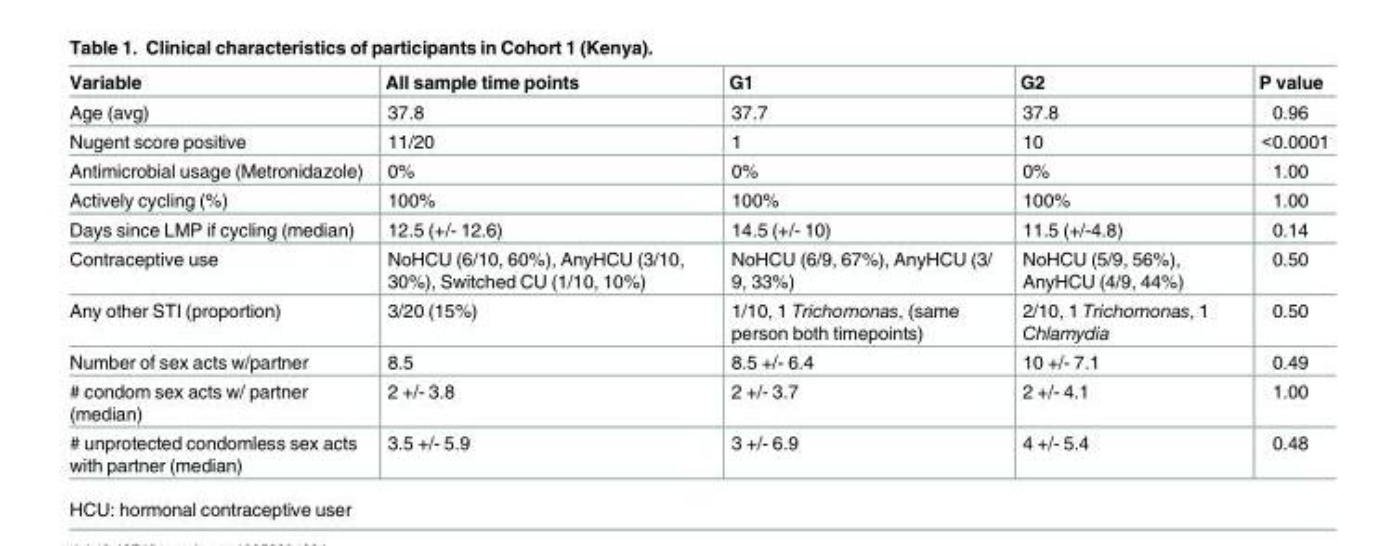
<table><thead><tr><td>Variable</td><td>All sample time points</td><td>G1</td><td>G2</td><td>P value</td></tr></thead><tbody><tr><td>Age (avg)</td><td>37.8</td><td>37.7</td><td>37.8</td><td>0.96</td></tr><tr><td>Nugent score positive</td><td>11/20</td><td>1</td><td>10</td><td>&lt;0.0001</td></tr><tr><td>Antimicrobial usage (Metronidazole)</td><td>0%</td><td>0%</td><td>0%</td><td>1.00</td></tr><tr><td>Actively cycling (%)</td><td>100%</td><td>100%</td><td>100%</td><td>1.00</td></tr><tr><td>Days since LMP if cycling (median)</td><td>12.5 (+/- 12.6)</td><td>14.5 (+/- 10)</td><td>11.5 (+/-4.8)</td><td>0.14</td></tr><tr><td>Contraceptive use</td><td>NoHCU (6/10, 60%), AnyHCU (3/10, 30%), Switched CU (1/10, 10%)</td><td>NoHCU (6/9, 67%), AnyHCU (3/ 9, 33%)</td><td>NoHCU (5/9, 56%), AnyHCU (4/9, 44%)</td><td>0.50</td></tr><tr><td>Any other STI (proportion)</td><td>3/20 (15%)</td><td>1/10, 1 Trichomonas, (same person both timepoints)</td><td>2/10, 1 Trichomonas, 1 Chlamydia</td><td>0.50</td></tr><tr><td>Number of sex acts w/partner</td><td>8.5</td><td>8.5 +/- 6.4</td><td>10 +/- 7.1</td><td>0.49</td></tr><tr><td># condom sex acts w/ partner (median)</td><td>2 +/- 3.8</td><td>2 +/- 3.7</td><td>2 +/- 4.1</td><td>1.00</td></tr><tr><td># unprotected condomless sex acts with partner (median)</td><td>3.5 +/- 5.9</td><td>3 +/- 6.9</td><td>4 +/- 5.4</td><td>0.48</td></tr></tbody></table>